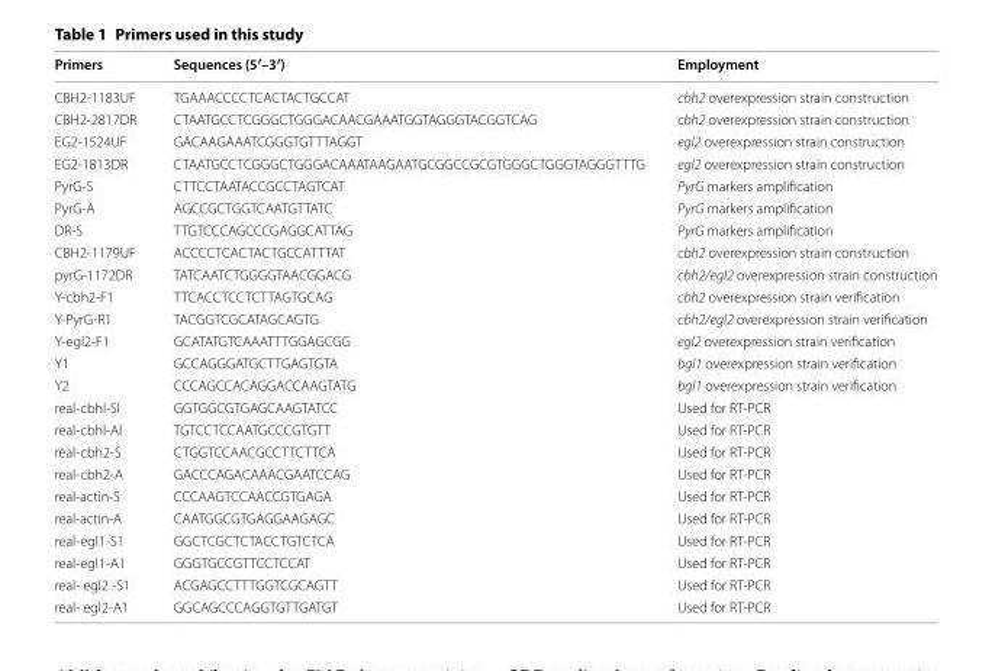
<table><thead><tr><td>Primers</td><td>Sequences (5′–3′)</td><td>Employment</td></tr></thead><tbody><tr><td>CBH2-1183UF</td><td>TGAAACCCCTCACTACTGCCAT</td><td>cbh2 overexpression strain construction</td></tr><tr><td>CBH2-2817DR</td><td>CTAATGCCTCGGGCTGGGACAACGAAATGGTAGGGTACGGTCAG</td><td>cbh2 overexpression strain construction</td></tr><tr><td>EG2-1524UF</td><td>GACAAGAAATCGGGTGTTTAGGT</td><td>egl2 overexpression strain construction</td></tr><tr><td>EG2-1813DR</td><td>CTAATGCCTCGGGCTGGGACAAATAAGAATGCGGCCGCGTGGGCTGGGTAGGGTTTG</td><td>egl2 overexpression strain construction</td></tr><tr><td>PyrG-S</td><td>CTTCCTAATACCGCCTAGTCAT</td><td>PyrG markers amplification</td></tr><tr><td>PyrG-A</td><td>AGCCGCTGGTCAATGTTATC</td><td>PyrG markers amplification</td></tr><tr><td>DR-S</td><td>TTGTCCCAGCCCGAGGCATTAG</td><td>PyrG markers amplification</td></tr><tr><td>CBH2-1179UF</td><td>ACCCCTCACTACTGCCATTTAT</td><td>cbh2 overexpression strain construction</td></tr><tr><td>pyrG-1172DR</td><td>TATCAATCTGGGGTAACGGACG</td><td>cbh2/egl2 overexpression strain construction</td></tr><tr><td>Y-cbh2-F1</td><td>TTCACCTCCTCTTAGTGCAG</td><td>cbh2 overexpression strain verification</td></tr><tr><td>Y-PyrG-R1</td><td>TACGGTCGCATAGCAGTG</td><td>cbh2/egl2 overexpression strain verification</td></tr><tr><td>Y-egl2-F1</td><td>GCATATGTCAAATTTGGAGCGG</td><td>egl2 overexpression strain verification</td></tr><tr><td>Y1</td><td>GCCAGGGATGCTTGAGTGTA</td><td>bgl1 overexpression strain verification</td></tr><tr><td>Y2</td><td>CCCAGCCACAGGACCAAGTATG</td><td>bgl1 overexpression strain verification</td></tr><tr><td>real-cbhl-Sl</td><td>GGTGGCGTGAGCAAGTATCC</td><td>Used for RT-PCR</td></tr><tr><td>real-cbhl-Al</td><td>TGTCCTCCAATGCCCGTGTT</td><td>Used for RT-PCR</td></tr><tr><td>real-cbh2-S</td><td>CTGGTCCAACGCCTTCTTCA</td><td>Used for RT-PCR</td></tr><tr><td>real-cbh2-A</td><td>GACCCAGACAAACGAATCCAG</td><td>Used for RT-PCR</td></tr><tr><td>real-actin-S</td><td>CCCAAGTCCAACCGTGAGA</td><td>Used for RT-PCR</td></tr><tr><td>real-actin-A</td><td>CAATGGCGTGAGGAAGAGC</td><td>Used for RT-PCR</td></tr><tr><td>real-egl1-S1</td><td>GGCTCGCTCTACCTGTCTCA</td><td>Used for RT-PCR</td></tr><tr><td>real-egl1-A1</td><td>GGGTGCCGTTCCTCCAT</td><td>Used for RT-PCR</td></tr><tr><td>real- egl2 -S1</td><td>ACGAGCCTTTGGTCGCAGTT</td><td>Used for RT-PCR</td></tr><tr><td>real- egl2-A1</td><td>GGCAGCCCAGGTGTTGATGT</td><td>Used for RT-PCR</td></tr></tbody></table>